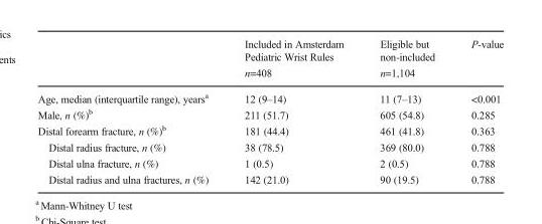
<table><thead><tr><td></td><td>Included in Amsterdam Pediatric Wrist Rules n=408</td><td>Eligible but non-included n=1,104</td><td>P-value</td></tr></thead><tbody><tr><td>Age, median (interquartile range), years<sup>a</sup></td><td>12 (9–14)</td><td>11 (7–13)</td><td>&lt;0.001</td></tr><tr><td>Male, n (%)<sup>b</sup></td><td>211 (51.7)</td><td>605 (54.8)</td><td>0.285</td></tr><tr><td>Distal forearm fracture, n (%)<sup>b</sup></td><td>181 (44.4)</td><td>461 (41.8)</td><td>0.363</td></tr><tr><td>Distal radius fracture, n (%)</td><td>38 (78.5)</td><td>369 (80.0)</td><td>0.788</td></tr><tr><td>Distal ulna fracture, n (%)</td><td>1 (0.5)</td><td>2 (0.5)</td><td>0.788</td></tr><tr><td>Distal radius and ulna fractures, n (%)</td><td>142 (21.0)</td><td>90 (19.5)</td><td>0.788</td></tr></tbody></table>